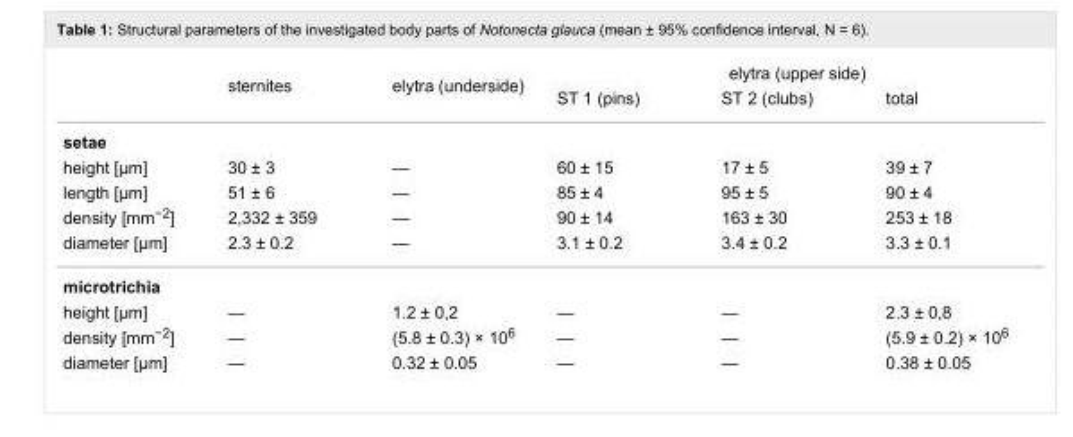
<table><thead><tr><td rowspan="2"></td><td rowspan="2">sternites</td><td rowspan="2">elytra (underside)</td><td colspan="3">elytra (upper side)</td></tr><tr><td>ST 1 (pins)</td><td>ST 2 (clubs)</td><td>total</td></tr></thead><tbody><tr><td colspan="6">setae</td></tr><tr><td>height [µm]</td><td>30 ± 3</td><td>—</td><td>60 ± 15</td><td>17 ± 5</td><td>39 ± 7</td></tr><tr><td>length [µm]</td><td>51 ± 6</td><td>—</td><td>85 ± 4</td><td>95 ± 5</td><td>90 ± 4</td></tr><tr><td>density [mm<sup>−2</sup>]</td><td>2,332 ± 359</td><td>—</td><td>90 ± 14</td><td>163 ± 30</td><td>253 ± 18</td></tr><tr><td>diameter [µm]</td><td>2.3 ± 0.2</td><td>—</td><td>3.1 ± 0.2</td><td>3.4 ± 0.2</td><td>3.3 ± 0.1</td></tr><tr><td colspan="6">microtrichia</td></tr><tr><td>height [µm]</td><td>—</td><td>1.2 ± 0,2</td><td>—</td><td>—</td><td>2.3 ± 0,8</td></tr><tr><td>density [mm<sup>−2</sup>]</td><td>—</td><td>(5.8 ± 0.3) × 10<sup>6</sup></td><td>—</td><td>—</td><td>(5.9 ± 0.2) × 10<sup>6</sup></td></tr><tr><td>diameter [µm]</td><td>—</td><td>0.32 ± 0.05</td><td>—</td><td>—</td><td>0.38 ± 0.05</td></tr></tbody></table>